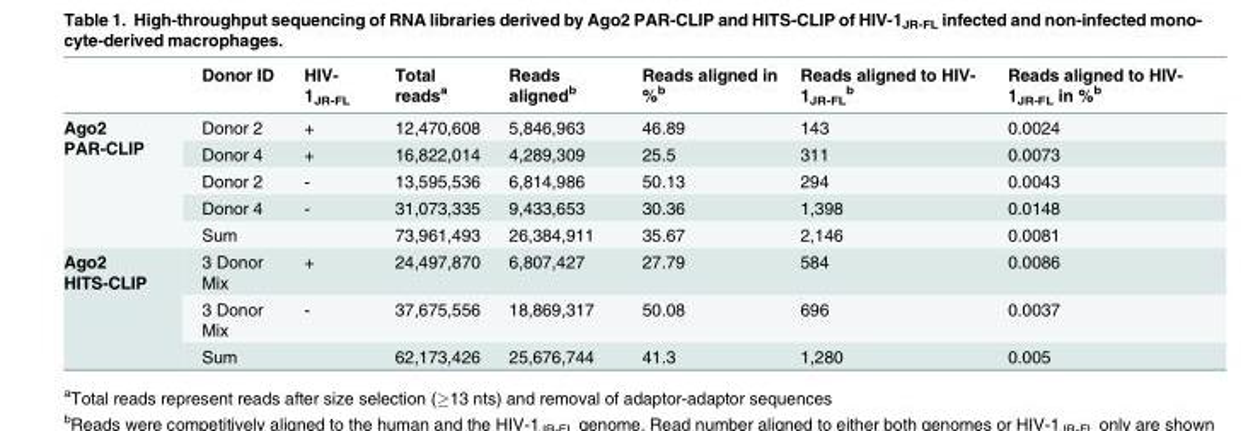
<table><thead><tr><td></td><td>Donor ID</td><td>HIV- 1<sub>JR-FL</sub></td><td>Total reads<sup>a</sup></td><td>Reads aligned<sup>b</sup></td><td>Reads aligned in %<sup>b</sup></td><td>Reads aligned to HIV- 1<sub>JR-FL</sub> <sup>b</sup></td><td>Reads aligned to HIV- 1<sub>JR-FL</sub> in %<sup>b</sup></td></tr></thead><tbody><tr><td rowspan="5">Ago2 PAR-CLIP</td><td>Donor 2</td><td>+</td><td>12,470,608</td><td>5,846,963</td><td>46.89</td><td>143</td><td>0.0024</td></tr><tr><td>Donor 4</td><td>+</td><td>16,822,014</td><td>4,289,309</td><td>25.5</td><td>311</td><td>0.0073</td></tr><tr><td>Donor 2</td><td>-</td><td>13,595,536</td><td>6,814,986</td><td>50.13</td><td>294</td><td>0.0043</td></tr><tr><td>Donor 4</td><td>-</td><td>31,073,335</td><td>9,433,653</td><td>30.36</td><td>1,398</td><td>0.0148</td></tr><tr><td>Sum</td><td></td><td>73,961,493</td><td>26,384,911</td><td>35.67</td><td>2,146</td><td>0.0081</td></tr><tr><td rowspan="3">Ago2 HITS-CLIP</td><td>3 Donor Mix</td><td>+</td><td>24,497,870</td><td>6,807,427</td><td>27.79</td><td>584</td><td>0.0086</td></tr><tr><td>3 Donor Mix</td><td>-</td><td>37,675,556</td><td>18,869,317</td><td>50.08</td><td>696</td><td>0.0037</td></tr><tr><td>Sum</td><td></td><td>62,173,426</td><td>25,676,744</td><td>41.3</td><td>1,280</td><td>0.005</td></tr></tbody></table>